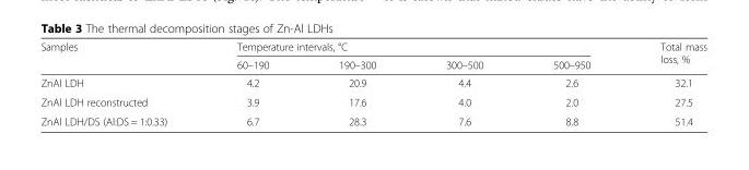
<table><thead><tr><td rowspan="2">Samples</td><td colspan="4">Temperature intervals, °C</td><td rowspan="2">Total mass loss, %</td></tr><tr><td>60–190</td><td>190–300</td><td>300–500</td><td>500–950</td></tr></thead><tbody><tr><td>ZnAl LDH</td><td>4.2</td><td>20.9</td><td>4.4</td><td>2.6</td><td>32.1</td></tr><tr><td>ZnAl LDH reconstructed</td><td>3.9</td><td>17.6</td><td>4.0</td><td>2.0</td><td>27.5</td></tr><tr><td>ZnAl LDH/DS (Al:DS = 1:0.33)</td><td>6.7</td><td>28.3</td><td>7.6</td><td>8.8</td><td>51.4</td></tr></tbody></table>